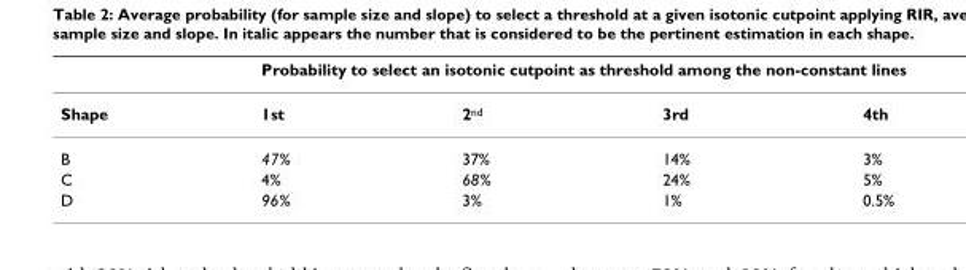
<table><thead><tr><td rowspan="2">Shape</td><td colspan="4">Probability to select an isotonic cutpoint as threshold among the non-constant lines</td></tr><tr><td>1st</td><td>2<sup>nd</sup></td><td>3rd</td><td>4th</td></tr></thead><tbody><tr><td>B</td><td>47%</td><td>37%</td><td>14%</td><td>3%</td></tr><tr><td>C</td><td>4%</td><td>68%</td><td>24%</td><td>5%</td></tr><tr><td>D</td><td>96%</td><td>3%</td><td>1%</td><td>0.5%</td></tr></tbody></table>